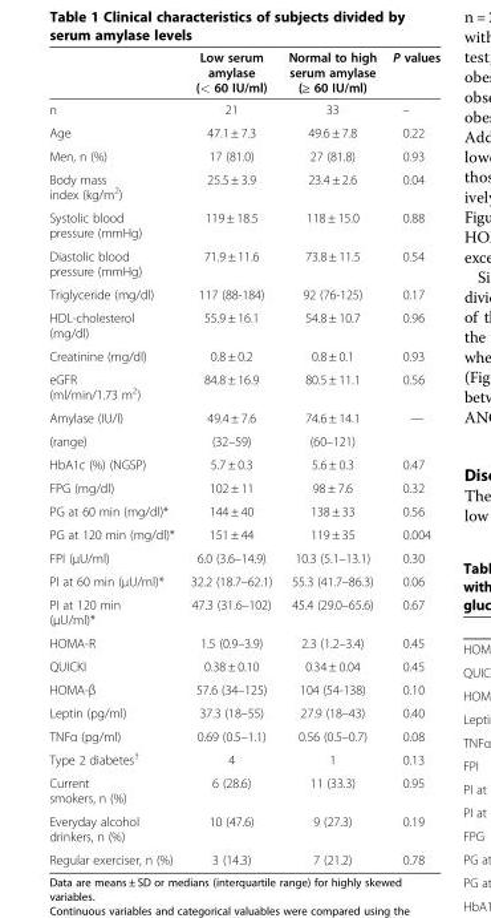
<table><thead><tr><td></td><td>Low serum amylase (&lt; 60 IU/ml)</td><td>Normal to high serum amylase (≥ 60 IU/ml)</td><td>P values</td></tr></thead><tbody><tr><td>n</td><td>21</td><td>33</td><td>–</td></tr><tr><td>Age</td><td>47.1 ± 7.3</td><td>49.6 ± 7.8</td><td>0.22</td></tr><tr><td>Men, n (%)</td><td>17 (81.0)</td><td>27 (81.8)</td><td>0.93</td></tr><tr><td>Body mass index (kg/m<sup>2</sup>)</td><td>25.5 ± 3.9</td><td>23.4 ± 2.6</td><td>0.04</td></tr><tr><td>Systolic blood pressure (mmHg)</td><td>119 ± 18.5</td><td>118 ± 15.0</td><td>0.88</td></tr><tr><td>Diastolic blood pressure (mmHg)</td><td>71.9 ± 11.6</td><td>73.8 ± 11.5</td><td>0.54</td></tr><tr><td>Triglyceride (mg/dl)</td><td>117 (88-184)</td><td>92 (76-125)</td><td>0.17</td></tr><tr><td>HDL-cholesterol (mg/dl)</td><td>55.9 ± 16.1</td><td>54.8 ± 10.7</td><td>0.96</td></tr><tr><td>Creatinine (mg/dl)</td><td>0.8 ± 0.2</td><td>0.8 ± 0.1</td><td>0.93</td></tr><tr><td>eGFR (ml/min/1.73 m<sup>2</sup>)</td><td>84.8 ± 16.9</td><td>80.5 ± 11.1</td><td>0.56</td></tr><tr><td>Amylase (IU/l)</td><td>49.4 ± 7.6</td><td>74.6 ± 14.1</td><td rowspan="2">—</td></tr><tr><td>(range)</td><td>(32–59)</td><td>(60–121)</td></tr><tr><td>HbA1c (%) (NGSP)</td><td>5.7 ± 0.3</td><td>5.6 ± 0.3</td><td>0.47</td></tr><tr><td>FPG (mg/dl)</td><td>102 ± 11</td><td>98 ± 7.6</td><td>0.32</td></tr><tr><td>PG at 60 min (mg/dl)*</td><td>144 ± 40</td><td>138 ± 33</td><td>0.56</td></tr><tr><td>PG at 120 min (mg/dl)*</td><td>151 ± 44</td><td>119 ± 35</td><td>0.004</td></tr><tr><td>FPI (μU/ml)</td><td>6.0 (3.6–14.9)</td><td>10.3 (5.1–13.1)</td><td>0.30</td></tr><tr><td>PI at 60 min (μU/ml)*</td><td>32.2 (18.7–62.1)</td><td>55.3 (41.7–86.3)</td><td>0.06</td></tr><tr><td>PI at 120 min (μU/ml)*</td><td>47.3 (31.6–102)</td><td>45.4 (29.0–65.6)</td><td>0.67</td></tr><tr><td>HOMA-R</td><td>1.5 (0.9–3.9)</td><td>2.3 (1.2–3.4)</td><td>0.45</td></tr><tr><td>QUICKI</td><td>0.38 ± 0.10</td><td>0.34 ± 0.04</td><td>0.45</td></tr><tr><td>HOMA-β</td><td>57.6 (34–125)</td><td>104 (54-138)</td><td>0.10</td></tr><tr><td>Leptin (pg/ml)</td><td>37.3 (18–55)</td><td>27.9 (18–43)</td><td>0.40</td></tr><tr><td>TNFα (pg/ml)</td><td>0.69 (0.5–1.1)</td><td>0.56 (0.5–0.7)</td><td>0.08</td></tr><tr><td>Type 2 diabetes<sup>†</sup></td><td>4</td><td>1</td><td>0.13</td></tr><tr><td>Current smokers, n (%)</td><td>6 (28.6)</td><td>11 (33.3)</td><td>0.95</td></tr><tr><td>Everyday alcohol drinkers, n (%)</td><td>10 (47.6)</td><td>9 (27.3)</td><td>0.19</td></tr><tr><td>Regular exerciser, n (%)</td><td>3 (14.3)</td><td>7 (21.2)</td><td>0.78</td></tr></tbody></table>